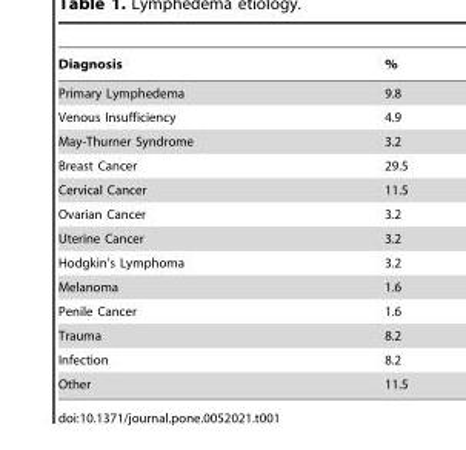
<table><thead><tr><td>Diagnosis</td><td>%</td></tr></thead><tbody><tr><td>Primary Lymphedema</td><td>9.8</td></tr><tr><td>Venous Insufficiency</td><td>4.9</td></tr><tr><td>May-Thurner Syndrome</td><td>3.2</td></tr><tr><td>Breast Cancer</td><td>29.5</td></tr><tr><td>Cervical Cancer</td><td>11.5</td></tr><tr><td>Ovarian Cancer</td><td>3.2</td></tr><tr><td>Uterine Cancer</td><td>3.2</td></tr><tr><td>Hodgkin’s Lymphoma</td><td>3.2</td></tr><tr><td>Melanoma</td><td>1.6</td></tr><tr><td>Penile Cancer</td><td>1.6</td></tr><tr><td>Trauma</td><td>8.2</td></tr><tr><td>Infection</td><td>8.2</td></tr><tr><td>Other</td><td>11.5</td></tr></tbody></table>